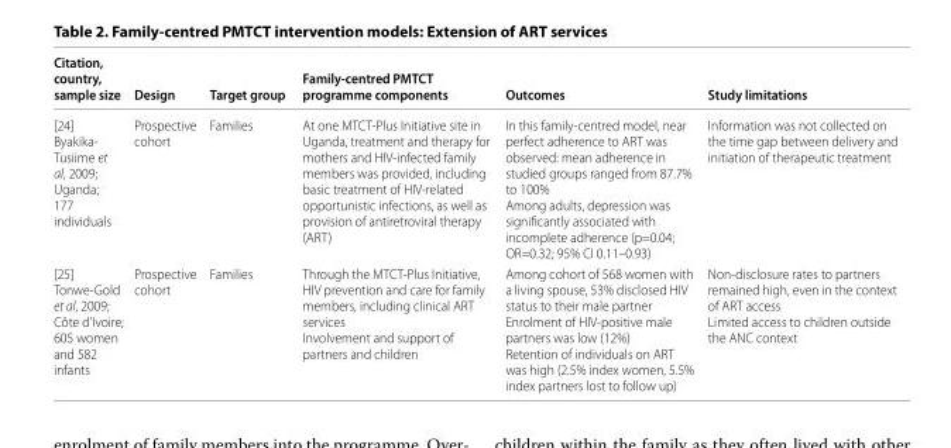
<table><thead><tr><td>Citation, country, sample size</td><td>Design</td><td>Target group</td><td>Family-centred PMTCT programme components</td><td>Outcomes</td><td>Study limitations</td></tr></thead><tbody><tr><td>[24] Byakika- Tusiime et al, 2009; Uganda; 177 individuals</td><td>Prospective cohort</td><td>Families</td><td>At one MTCT-Plus Initiative site in Uganda, treatment and therapy for mothers and HIV-infected family members was provided, including basic treatment of HIV-related opportunistic infections, as well as provision of antiretroviral therapy (ART)</td><td>In this family-centred model, near perfect adherence to ART was observed: mean adherence in studied groups ranged from 87.7% to 100% Among adults, depression was signifi cantly associated with incomplete adherence (p=0.04; OR=0.32; 95% CI 0.11–0.93)</td><td>Information was not collected on the time gap between delivery and initiation of therapeutic treatment</td></tr><tr><td>[25] Tonwe-Gold et al, 2009; Côte d’Ivoire; 605 women and 582 infants</td><td>Prospective cohort</td><td>Families</td><td>Through the MTCT-Plus Initiative, HIV prevention and care for family members, including clinical ART services Involvement and support of partners and children</td><td>Among cohort of 568 women with a living spouse, 53% disclosed HIV status to their male partner Enrolment of HIV-positive male partners was low (12%) Retention of individuals on ART was high (2.5% index women, 5.5% index partners lost to follow up)</td><td>Non-disclosure rates to partners remained high, even in the context of ART access Limited access to children outside the ANC context</td></tr></tbody></table>